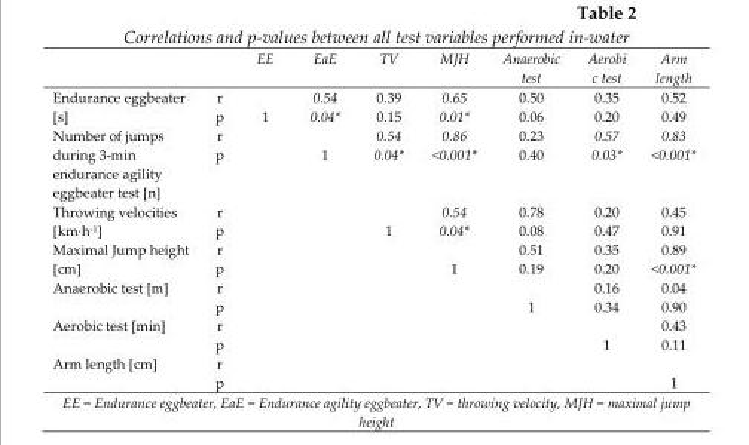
<table><thead><tr><td></td><td></td><td>EE</td><td>EaE</td><td>TV</td><td>MJH</td><td>Anaerobic test</td><td>Aerobi c test</td><td>Arm length</td></tr></thead><tbody><tr><td rowspan="2">Endurance eggbeater [s]</td><td>r</td><td></td><td>0.54</td><td>0.39</td><td>0.65</td><td>0.50</td><td>0.35</td><td>0.52</td></tr><tr><td>p</td><td>1</td><td>0.04*</td><td>0.15</td><td>0.01*</td><td>0.06</td><td>0.20</td><td>0.49</td></tr><tr><td rowspan="2">Number of jumps during 3-min endurance agility eggbeater test [n]</td><td>r</td><td></td><td></td><td>0.54</td><td>0.86</td><td>0.23</td><td>0.57</td><td>0.83</td></tr><tr><td>p</td><td></td><td>1</td><td>0.04*</td><td>&lt;0.001*</td><td>0.40</td><td>0.03*</td><td>&lt;0.001*</td></tr><tr><td rowspan="2">Throwing velocities [km·h<sup>-1</sup>]</td><td>r</td><td></td><td></td><td></td><td>0.54</td><td>0.78</td><td>0.20</td><td>0.45</td></tr><tr><td>p</td><td></td><td></td><td>1</td><td>0.04*</td><td>0.08</td><td>0.47</td><td>0.91</td></tr><tr><td rowspan="2">Maximal Jump height [cm]</td><td>r</td><td></td><td></td><td></td><td></td><td>0.51</td><td>0.35</td><td>0.89</td></tr><tr><td>p</td><td></td><td></td><td></td><td>1</td><td>0.19</td><td>0.20</td><td>&lt;0.001*</td></tr><tr><td rowspan="2">Anaerobic test [m]</td><td>r</td><td></td><td></td><td></td><td></td><td></td><td>0.16</td><td>0.04</td></tr><tr><td>p</td><td></td><td></td><td></td><td></td><td>1</td><td>0.34</td><td>0.90</td></tr><tr><td rowspan="2">Aerobic test [min]</td><td>r</td><td></td><td></td><td></td><td></td><td></td><td></td><td>0.43</td></tr><tr><td>p</td><td></td><td></td><td></td><td></td><td></td><td>1</td><td>0.11</td></tr><tr><td rowspan="2">Arm length [cm]</td><td>r</td><td></td><td></td><td></td><td></td><td></td><td></td><td></td></tr><tr><td>p</td><td></td><td></td><td></td><td></td><td></td><td></td><td>1</td></tr></tbody></table>